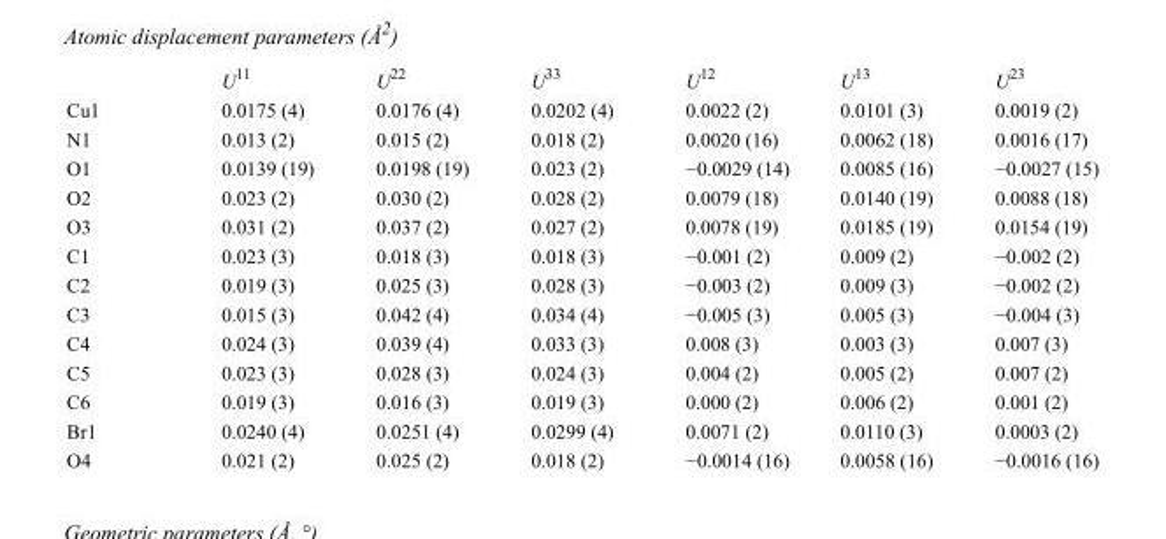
<table><thead><tr><td></td><td>U<sup>11</sup></td><td>U<sup>22</sup></td><td>U<sup>33</sup></td><td>U<sup>12</sup></td><td>U<sup>13</sup></td><td>U<sup>23</sup></td></tr></thead><tbody><tr><td>Cu1</td><td>0.0175 (4)</td><td>0.0176 (4)</td><td>0.0202 (4)</td><td>0.0022 (2)</td><td>0.0101 (3)</td><td>0.0019 (2)</td></tr><tr><td>N1</td><td>0.013 (2)</td><td>0.015 (2)</td><td>0.018 (2)</td><td>0.0020 (16)</td><td>0.0062 (18)</td><td>0.0016 (17)</td></tr><tr><td>O1</td><td>0.0139 (19)</td><td>0.0198 (19)</td><td>0.023 (2)</td><td>−0.0029 (14)</td><td>0.0085 (16)</td><td>−0.0027 (15)</td></tr><tr><td>O2</td><td>0.023 (2)</td><td>0.030 (2)</td><td>0.028 (2)</td><td>0.0079 (18)</td><td>0.0140 (19)</td><td>0.0088 (18)</td></tr><tr><td>O3</td><td>0.031 (2)</td><td>0.037 (2)</td><td>0.027 (2)</td><td>0.0078 (19)</td><td>0.0185 (19)</td><td>0.0154 (19)</td></tr><tr><td>C1</td><td>0.023 (3)</td><td>0.018 (3)</td><td>0.018 (3)</td><td>−0.001 (2)</td><td>0.009 (2)</td><td>−0.002 (2)</td></tr><tr><td>C2</td><td>0.019 (3)</td><td>0.025 (3)</td><td>0.028 (3)</td><td>−0.003 (2)</td><td>0.009 (3)</td><td>−0.002 (2)</td></tr><tr><td>C3</td><td>0.015 (3)</td><td>0.042 (4)</td><td>0.034 (4)</td><td>−0.005 (3)</td><td>0.005 (3)</td><td>−0.004 (3)</td></tr><tr><td>C4</td><td>0.024 (3)</td><td>0.039 (4)</td><td>0.033 (3)</td><td>0.008 (3)</td><td>0.003 (3)</td><td>0.007 (3)</td></tr><tr><td>C5</td><td>0.023 (3)</td><td>0.028 (3)</td><td>0.024 (3)</td><td>0.004 (2)</td><td>0.005 (2)</td><td>0.007 (2)</td></tr><tr><td>C6</td><td>0.019 (3)</td><td>0.016 (3)</td><td>0.019 (3)</td><td>0.000 (2)</td><td>0.006 (2)</td><td>0.001 (2)</td></tr><tr><td>Br1</td><td>0.0240 (4)</td><td>0.0251 (4)</td><td>0.0299 (4)</td><td>0.0071 (2)</td><td>0.0110 (3)</td><td>0.0003 (2)</td></tr><tr><td>O4</td><td>0.021 (2)</td><td>0.025 (2)</td><td>0.018 (2)</td><td>−0.0014 (16)</td><td>0.0058 (16)</td><td>−0.0016 (16)</td></tr></tbody></table>